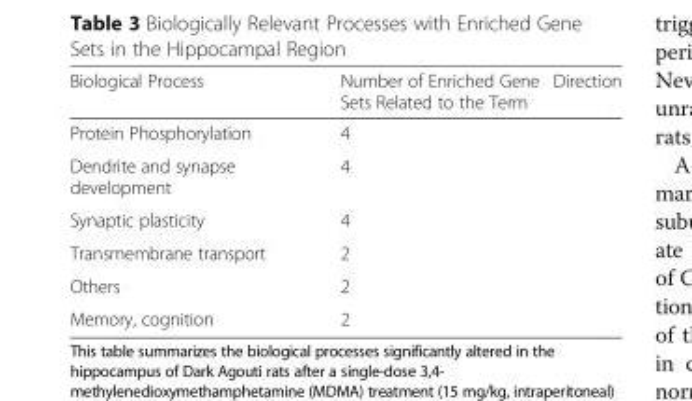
<table><thead><tr><td>Biological Process</td><td>Number of Enriched Gene Sets Related to the Term</td><td>Direction</td></tr></thead><tbody><tr><td>Protein Phosphorylation</td><td>4</td><td></td></tr><tr><td>Dendrite and synapse development</td><td>4</td><td></td></tr><tr><td>Synaptic plasticity</td><td>4</td><td></td></tr><tr><td>Transmembrane transport</td><td>2</td><td></td></tr><tr><td>Others</td><td>2</td><td></td></tr><tr><td>Memory, cognition</td><td>2</td><td></td></tr></tbody></table>